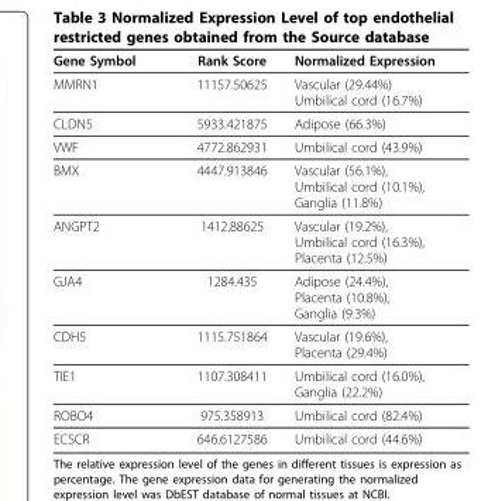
<table><thead><tr><td>Gene Symbol</td><td>Rank Score</td><td>Normalized Expression</td></tr></thead><tbody><tr><td>MMRN1</td><td>11157.50625</td><td>Vascular (29.44%) Umbilical cord (16.7%)</td></tr><tr><td>CLDN5</td><td>5933.421875</td><td>Adipose (66.3%)</td></tr><tr><td>VWF</td><td>4772.862931</td><td>Umbilical cord (43.9%)</td></tr><tr><td>BMX</td><td>4447.913846</td><td>Vascular (56.1%), Umbilical cord (10.1%), Ganglia (11.8%)</td></tr><tr><td>ANGPT2</td><td>1412.88625</td><td>Vascular (19.2%), Umbilical cord (16.3%), Placenta (12.5%)</td></tr><tr><td>GJA4</td><td>1284.435</td><td>Adipose (24.4%), Placenta (10.8%), Ganglia (9.3%)</td></tr><tr><td>CDH5</td><td>1115.751864</td><td>Vascular (19.6%), Placenta (29.4%)</td></tr><tr><td>TIE1</td><td>1107.308411</td><td>Umbilical cord (16.0%), Ganglia (22.2%)</td></tr><tr><td>ROBO4</td><td>975.358913</td><td>Umbilical cord (82.4%)</td></tr><tr><td>ECSCR</td><td>646.6127586</td><td>Umbilical cord (44.6%)</td></tr></tbody></table>